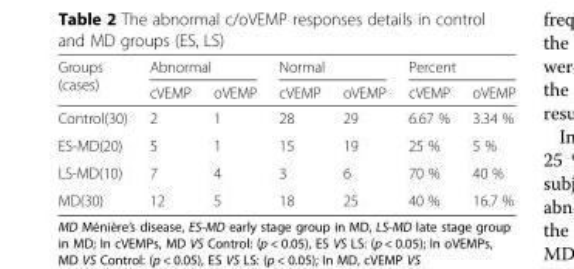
<table><thead><tr><td rowspan="2">Groups (cases)</td><td colspan="2">Abnormal</td><td colspan="2">Normal</td><td colspan="2">Percent</td></tr><tr><td>cVEMP</td><td>oVEMP</td><td>cVEMP</td><td>oVEMP</td><td>cVEMP</td><td>oVEMP</td></tr></thead><tbody><tr><td>Control(30)</td><td>2</td><td>1</td><td>28</td><td>29</td><td>6.67 %</td><td>3.34 %</td></tr><tr><td>ES-MD(20)</td><td>5</td><td>1</td><td>15</td><td>19</td><td>25 %</td><td>5 %</td></tr><tr><td>LS-MD(10)</td><td>7</td><td>4</td><td>3</td><td>6</td><td>70 %</td><td>40 %</td></tr><tr><td>MD(30)</td><td>12</td><td>5</td><td>18</td><td>25</td><td>40 %</td><td>16.7 %</td></tr></tbody></table>